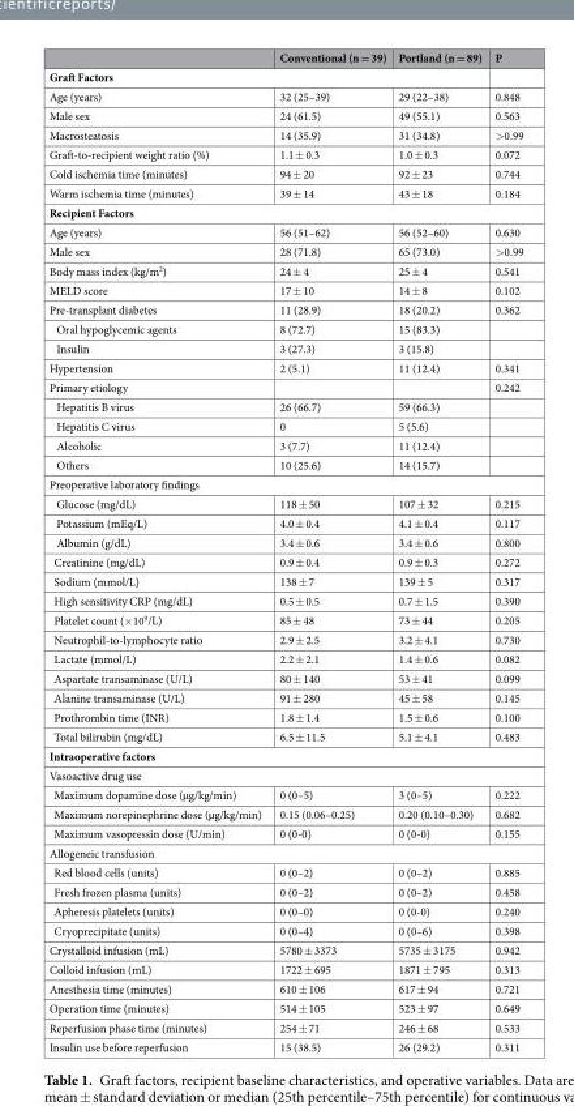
<table><thead><tr><td></td><td>Conventional (n = 39)</td><td>Portland (n = 89)</td><td>P</td></tr></thead><tbody><tr><td colspan="4">Graft Factors</td></tr><tr><td>Age (years)</td><td>32 (25–39)</td><td>29 (22–38)</td><td>0.848</td></tr><tr><td>Male sex</td><td>24 (61.5)</td><td>49 (55.1)</td><td>0.563</td></tr><tr><td>Macrosteatosis</td><td>14 (35.9)</td><td>31 (34.8)</td><td>&gt;0.99</td></tr><tr><td>Graft-to-recipient weight ratio (%)</td><td>1.1 ± 0.3</td><td>1.0 ± 0.3</td><td>0.072</td></tr><tr><td>Cold ischemia time (minutes)</td><td>94 ± 20</td><td>92 ± 23</td><td>0.744</td></tr><tr><td>Warm ischemia time (minutes)</td><td>39 ± 14</td><td>43 ± 18</td><td>0.184</td></tr><tr><td colspan="4">Recipient Factors</td></tr><tr><td>Age (years)</td><td>56 (51–62)</td><td>56 (52–60)</td><td>0.630</td></tr><tr><td>Male sex</td><td>28 (71.8)</td><td>65 (73.0)</td><td>&gt;0.99</td></tr><tr><td>Body mass index (kg/m<sup>2</sup>)</td><td>24 ± 4</td><td>25 ± 4</td><td>0.541</td></tr><tr><td>MELD score</td><td>17 ± 10</td><td>14 ± 8</td><td>0.102</td></tr><tr><td>Pre-transplant diabetes</td><td>11 (28.9)</td><td>18 (20.2)</td><td>0.362</td></tr><tr><td>Oral hypoglycemic agents</td><td>8 (72.7)</td><td>15 (83.3)</td><td></td></tr><tr><td>Insulin</td><td>3 (27.3)</td><td>3 (15.8)</td><td></td></tr><tr><td>Hypertension</td><td>2 (5.1)</td><td>11 (12.4)</td><td>0.341</td></tr><tr><td>Primary etiology</td><td></td><td></td><td>0.242</td></tr><tr><td>Hepatitis B virus</td><td>26 (66.7)</td><td>59 (66.3)</td><td></td></tr><tr><td>Hepatitis C virus</td><td>0</td><td>5 (5.6)</td><td></td></tr><tr><td>Alcoholic</td><td>3 (7.7)</td><td>11 (12.4)</td><td></td></tr><tr><td>Others</td><td>10 (25.6)</td><td>14 (15.7)</td><td></td></tr><tr><td colspan="4">Preoperative laboratory findings</td></tr><tr><td>Glucose (mg/dL)</td><td>118 ± 50</td><td>107 ± 32</td><td>0.215</td></tr><tr><td>Potassium (mEq/L)</td><td>4.0 ± 0.4</td><td>4.1 ± 0.4</td><td>0.117</td></tr><tr><td>Albumin (g/dL)</td><td>3.4 ± 0.6</td><td>3.4 ± 0.6</td><td>0.800</td></tr><tr><td>Creatinine (mg/dL)</td><td>0.9 ± 0.4</td><td>0.9 ± 0.3</td><td>0.272</td></tr><tr><td>Sodium (mmol/L)</td><td>138 ± 7</td><td>139 ± 5</td><td>0.317</td></tr><tr><td>High sensitivity CRP (mg/dL)</td><td>0.5 ± 0.5</td><td>0.7 ± 1.5</td><td>0.390</td></tr><tr><td>Platelet count (×10<sup>9</sup>/L)</td><td>85 ± 48</td><td>73 ± 44</td><td>0.205</td></tr><tr><td>Neutrophil-to-lymphocyte ratio</td><td>2.9 ± 2.5</td><td>3.2 ± 4.1</td><td>0.730</td></tr><tr><td>Lactate (mmol/L)</td><td>2.2 ± 2.1</td><td>1.4 ± 0.6</td><td>0.082</td></tr><tr><td>Aspartate transaminase (U/L)</td><td>80 ± 140</td><td>53 ± 41</td><td>0.099</td></tr><tr><td>Alanine transaminase (U/L)</td><td>91 ± 280</td><td>45 ± 58</td><td>0.145</td></tr><tr><td>Prothrombin time (INR)</td><td>1.8 ± 1.4</td><td>1.5 ± 0.6</td><td>0.100</td></tr><tr><td>Total bilirubin (mg/dL)</td><td>6.5 ± 11.5</td><td>5.1 ± 4.1</td><td>0.483</td></tr><tr><td colspan="4">Intraoperative factors</td></tr><tr><td colspan="4">Vasoactive drug use</td></tr><tr><td>Maximum dopamine dose (µg/kg/min)</td><td>0 (0–5)</td><td>3 (0–5)</td><td>0.222</td></tr><tr><td>Maximum norepinephrine dose (µg/kg/min)</td><td>0.15 (0.06–0.25)</td><td>0.20 (0.10–0.30)</td><td>0.682</td></tr><tr><td>Maximum vasopressin dose (U/min)</td><td>0 (0-0)</td><td>0 (0-0)</td><td>0.155</td></tr><tr><td colspan="4">Allogeneic transfusion</td></tr><tr><td>Red blood cells (units)</td><td>0 (0–2)</td><td>0 (0–2)</td><td>0.885</td></tr><tr><td>Fresh frozen plasma (units)</td><td>0 (0–2)</td><td>0 (0–2)</td><td>0.458</td></tr><tr><td>Apheresis platelets (units)</td><td>0 (0–0)</td><td>0 (0-0)</td><td>0.240</td></tr><tr><td>Cryoprecipitate (units)</td><td>0 (0–4)</td><td>0 (0–6)</td><td>0.398</td></tr><tr><td>Crystalloid infusion (mL)</td><td>5780 ± 3373</td><td>5735 ± 3175</td><td>0.942</td></tr><tr><td>Colloid infusion (mL)</td><td>1722 ± 695</td><td>1871 ± 795</td><td>0.313</td></tr><tr><td>Anesthesia time (minutes)</td><td>610 ± 106</td><td>617 ± 94</td><td>0.721</td></tr><tr><td>Operation time (minutes)</td><td>514 ± 105</td><td>523 ± 97</td><td>0.649</td></tr><tr><td>Reperfusion phase time (minutes)</td><td>254 ± 71</td><td>246 ± 68</td><td>0.533</td></tr><tr><td>Insulin use before reperfusion</td><td>15 (38.5)</td><td>26 (29.2)</td><td>0.311</td></tr></tbody></table>